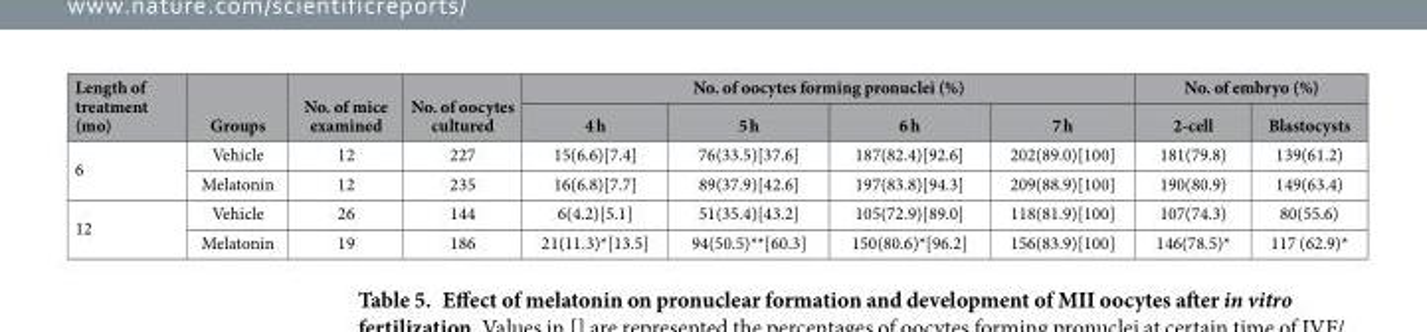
<table><thead><tr><td rowspan="2">Length of treatment (mo)</td><td rowspan="2">Groups</td><td rowspan="2">No. of mice examined</td><td rowspan="2">No. of oocytes cultured</td><td colspan="4">No. of oocytes forming pronuclei (%)</td><td colspan="2">No. of embryo (%)</td></tr><tr><td>4 h</td><td>5 h</td><td>6 h</td><td>7 h</td><td>2-cell</td><td>Blastocysts</td></tr></thead><tbody><tr><td rowspan="2">6</td><td>Vehicle</td><td>12</td><td>227</td><td>15(6.6)[7.4]</td><td>76(33.5)[37.6]</td><td>187(82.4)[92.6]</td><td>202(89.0)[100]</td><td>181(79.8)</td><td>139(61.2)</td></tr><tr><td>Melatonin</td><td>12</td><td>235</td><td>16(6.8)[7.7]</td><td>89(37.9)[42.6]</td><td>197(83.8)[94.3]</td><td>209(88.9)[100]</td><td>190(80.9)</td><td>149(63.4)</td></tr><tr><td rowspan="2">12</td><td>Vehicle</td><td>26</td><td>144</td><td>6(4.2)[5.1]</td><td>51(35.4)[43.2]</td><td>105(72.9)[89.0]</td><td>118(81.9)[100]</td><td>107(74.3)</td><td>80(55.6)</td></tr><tr><td>Melatonin</td><td>19</td><td>186</td><td>21(11.3)*[13.5]</td><td>94(50.5)**[60.3]</td><td>150(80.6)*[96.2]</td><td>156(83.9)[100]</td><td>146(78.5)*</td><td>117 (62.9)*</td></tr></tbody></table>